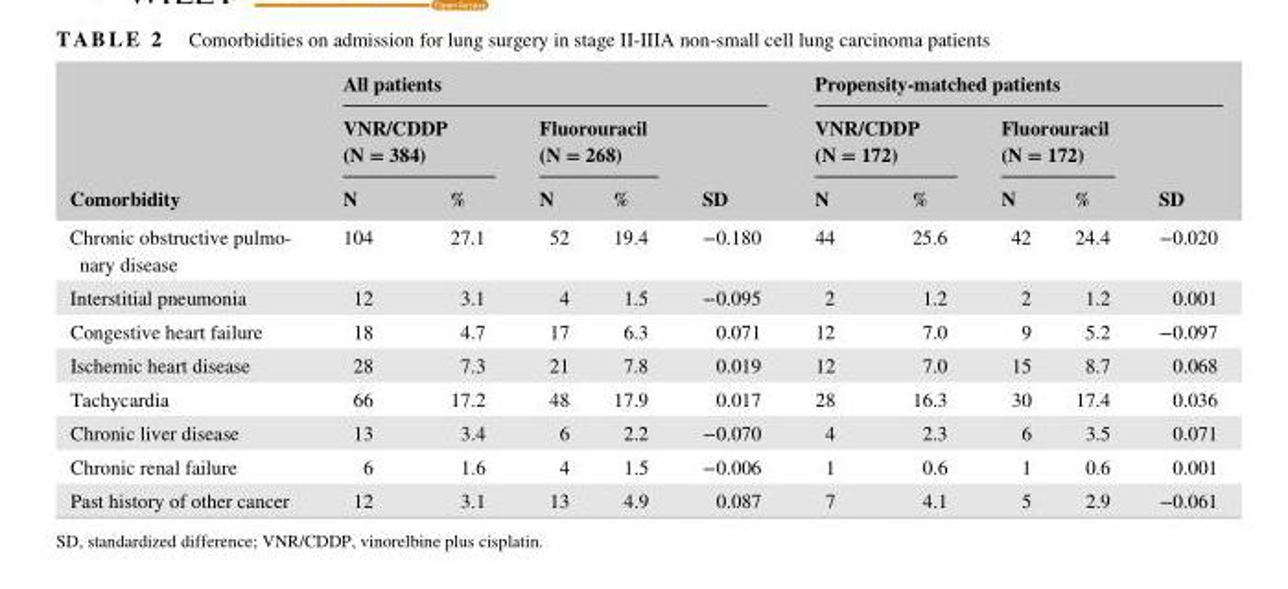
<table><thead><tr><td rowspan="3">Comorbidity</td><td colspan="5">All patients</td><td colspan="5">Propensity- matched patients</td></tr><tr><td colspan="2">VNR/CDDP (N = 384)</td><td colspan="2">Fluorouracil (N = 268)</td><td rowspan="2">SD</td><td colspan="2">VNR/CDDP (N = 172)</td><td colspan="2">Fluorouracil (N = 172)</td><td rowspan="2">SD</td></tr><tr><td>N</td><td>%</td><td>N</td><td>%</td><td>N</td><td>%</td><td>N</td><td>%</td></tr></thead><tbody><tr><td>Chronic obstructive pulmo- nary disease</td><td>104</td><td>27.1</td><td>52</td><td>19.4</td><td>−0.180</td><td>44</td><td>25.6</td><td>42</td><td>24.4</td><td>−0.020</td></tr><tr><td>Interstitial pneumonia</td><td>12</td><td>3.1</td><td>4</td><td>1.5</td><td>−0.095</td><td>2</td><td>1.2</td><td>2</td><td>1.2</td><td>0.001</td></tr><tr><td>Congestive heart failure</td><td>18</td><td>4.7</td><td>17</td><td>6.3</td><td>0.071</td><td>12</td><td>7.0</td><td>9</td><td>5.2</td><td>−0.097</td></tr><tr><td>Ischemic heart disease</td><td>28</td><td>7.3</td><td>21</td><td>7.8</td><td>0.019</td><td>12</td><td>7.0</td><td>15</td><td>8.7</td><td>0.068</td></tr><tr><td>Tachycardia</td><td>66</td><td>17.2</td><td>48</td><td>17.9</td><td>0.017</td><td>28</td><td>16.3</td><td>30</td><td>17.4</td><td>0.036</td></tr><tr><td>Chronic liver disease</td><td>13</td><td>3.4</td><td>6</td><td>2.2</td><td>−0.070</td><td>4</td><td>2.3</td><td>6</td><td>3.5</td><td>0.071</td></tr><tr><td>Chronic renal failure</td><td>6</td><td>1.6</td><td>4</td><td>1.5</td><td>−0.006</td><td>1</td><td>0.6</td><td>1</td><td>0.6</td><td>0.001</td></tr><tr><td>Past history of other cancer</td><td>12</td><td>3.1</td><td>13</td><td>4.9</td><td>0.087</td><td>7</td><td>4.1</td><td>5</td><td>2.9</td><td>−0.061</td></tr></tbody></table>